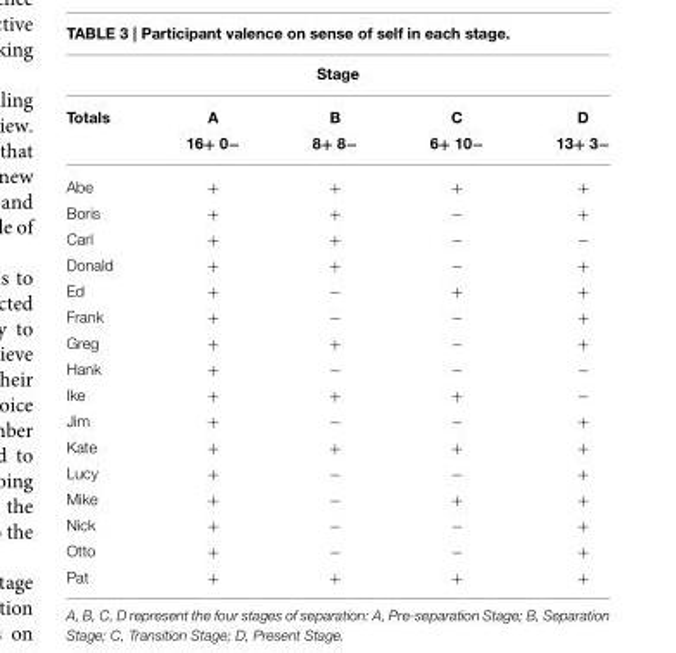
<table><thead><tr><td colspan="5">Stage</td></tr><tr><td>Totals</td><td>A</td><td>B</td><td>C</td><td>D</td></tr></thead><tbody><tr><td></td><td>16+ 0−</td><td>8+ 8−</td><td>6+ 10−</td><td>13+ 3−</td></tr><tr><td>Abe</td><td>+</td><td>+</td><td>+</td><td>+</td></tr><tr><td>Boris</td><td>+</td><td>+</td><td>−</td><td>+</td></tr><tr><td>Carl</td><td>+</td><td>+</td><td>−</td><td>−</td></tr><tr><td>Donald</td><td>+</td><td>+</td><td>−</td><td>+</td></tr><tr><td>Ed</td><td>+</td><td>−</td><td>+</td><td>+</td></tr><tr><td>Frank</td><td>+</td><td>−</td><td>−</td><td>+</td></tr><tr><td>Greg</td><td>+</td><td>+</td><td>−</td><td>+</td></tr><tr><td>Hank</td><td>+</td><td>−</td><td>−</td><td>−</td></tr><tr><td>Ike</td><td>+</td><td>+</td><td>+</td><td>−</td></tr><tr><td>Jim</td><td>+</td><td>−</td><td>−</td><td>+</td></tr><tr><td>Kate</td><td>+</td><td>+</td><td>+</td><td>+</td></tr><tr><td>Lucy</td><td>+</td><td>−</td><td>−</td><td>+</td></tr><tr><td>Mike</td><td>+</td><td>−</td><td>+</td><td>+</td></tr><tr><td>Nick</td><td>+</td><td>−</td><td>−</td><td>+</td></tr><tr><td>Otto</td><td>+</td><td>−</td><td>−</td><td>+</td></tr><tr><td>Pat</td><td>+</td><td>+</td><td>+</td><td>+</td></tr></tbody></table>